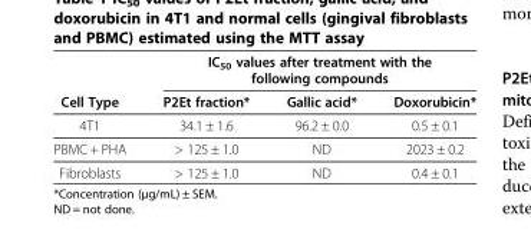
<table><thead><tr><td rowspan="2">Cell Type</td><td colspan="3">IC<sub>50</sub> values after treatment with the following compounds</td></tr><tr><td>P2Et fraction*</td><td>Gallic acid*</td><td>Doxorubicin*</td></tr></thead><tbody><tr><td>4T1</td><td>34.1 ± 1.6</td><td>96.2 ± 0.0</td><td>0.5 ± 0.1</td></tr><tr><td>PBMC + PHA</td><td>&gt; 125 ± 1.0</td><td>ND</td><td>2023 ± 0.2</td></tr><tr><td>Fibroblasts</td><td>&gt; 125 ± 1.0</td><td>ND</td><td>0.4 ± 0.1</td></tr></tbody></table>